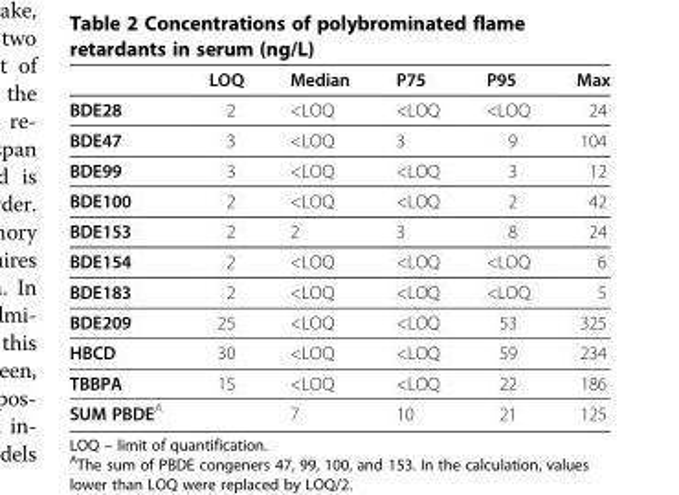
<table><thead><tr><td></td><td>LOQ</td><td>Median</td><td>P75</td><td>P95</td><td>Max</td></tr></thead><tbody><tr><td>BDE28</td><td>2</td><td>&lt;LOQ</td><td>&lt;LOQ</td><td>&lt;LOQ</td><td>24</td></tr><tr><td>BDE47</td><td>3</td><td>&lt;LOQ</td><td>3</td><td>9</td><td>104</td></tr><tr><td>BDE99</td><td>3</td><td>&lt;LOQ</td><td>&lt;LOQ</td><td>3</td><td>12</td></tr><tr><td>BDE100</td><td>2</td><td>&lt;LOQ</td><td>&lt;LOQ</td><td>2</td><td>42</td></tr><tr><td>BDE153</td><td>2</td><td>2</td><td>3</td><td>8</td><td>24</td></tr><tr><td>BDE154</td><td>2</td><td>&lt;LOQ</td><td>&lt;LOQ</td><td>&lt;LOQ</td><td>6</td></tr><tr><td>BDE183</td><td>2</td><td>&lt;LOQ</td><td>&lt;LOQ</td><td>&lt;LOQ</td><td>5</td></tr><tr><td>BDE209</td><td>25</td><td>&lt;LOQ</td><td>&lt;LOQ</td><td>53</td><td>325</td></tr><tr><td>HBCD</td><td>30</td><td>&lt;LOQ</td><td>&lt;LOQ</td><td>59</td><td>234</td></tr><tr><td>TBBPA</td><td>15</td><td>&lt;LOQ</td><td>&lt;LOQ</td><td>22</td><td>186</td></tr><tr><td>SUM PBDE<sup>A</sup></td><td></td><td>7</td><td>10</td><td>21</td><td>125</td></tr></tbody></table>